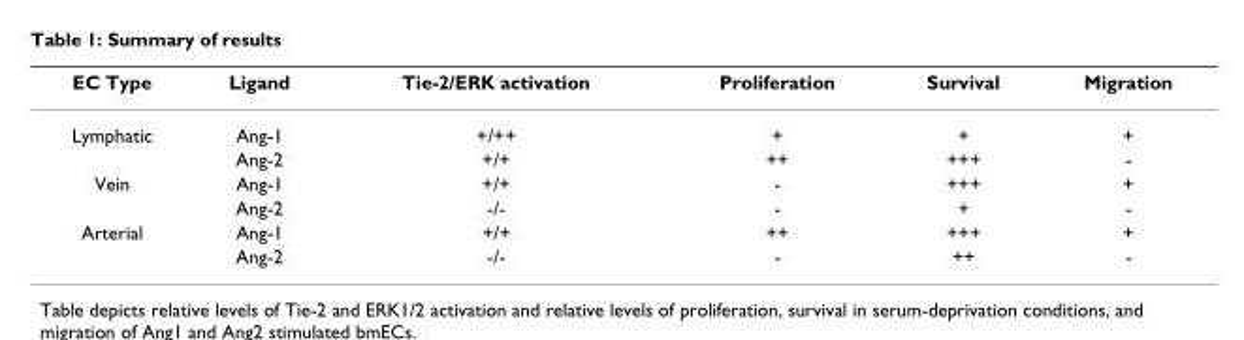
<table><thead><tr><td>EC Type</td><td>Ligand</td><td>Tie-2/ERK activation</td><td>Proliferation</td><td>Survival</td><td>Migration</td></tr></thead><tbody><tr><td rowspan="2">Lymphatic</td><td>Ang-1</td><td>+/++</td><td>+</td><td>+</td><td>+</td></tr><tr><td>Ang-2</td><td>+/+</td><td>++</td><td>+++</td><td>-</td></tr><tr><td rowspan="2">Vein</td><td>Ang-1</td><td>+/+</td><td>-</td><td>+++</td><td>+</td></tr><tr><td>Ang-2</td><td>-/-</td><td>-</td><td>+</td><td>-</td></tr><tr><td rowspan="2">Arterial</td><td>Ang-1</td><td>+/+</td><td>++</td><td>+++</td><td>+</td></tr><tr><td>Ang-2</td><td>-/-</td><td>-</td><td>++</td><td>-</td></tr></tbody></table>